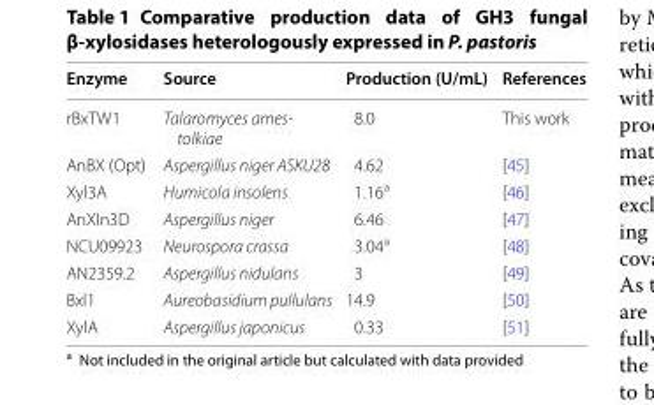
<table><thead><tr><td>Enzyme</td><td>Source</td><td>Production (U/mL)</td><td>References</td></tr></thead><tbody><tr><td>rBxTW1</td><td>Talaromyces ames- tolkiae</td><td>8.0</td><td>This work</td></tr><tr><td>AnBX (Opt)</td><td>Aspergillus niger ASKU28</td><td>4.62</td><td>[45]</td></tr><tr><td>Xyl3A</td><td>Humicola insolens</td><td>1.16<sup>a</sup></td><td>[46]</td></tr><tr><td>AnXln3D</td><td>Aspergillus niger</td><td>6.46</td><td>[47]</td></tr><tr><td>NCU09923</td><td>Neurospora crassa</td><td>3.04<sup>a</sup></td><td>[48]</td></tr><tr><td>AN2359.2</td><td>Aspergillus nidulans</td><td>3</td><td>[49]</td></tr><tr><td>Bxl1</td><td>Aureobasidium pullulans</td><td>14.9</td><td>[50]</td></tr><tr><td>XylA</td><td>Aspergillus japonicus</td><td>0.33</td><td>[51]</td></tr></tbody></table>